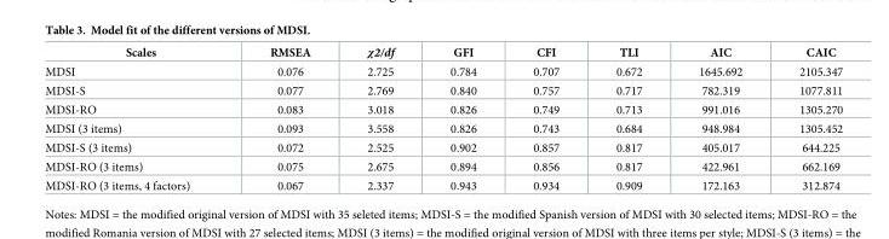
<table><thead><tr><td>Scales</td><td>RMSEA</td><td>χ2/df</td><td>GFI</td><td>CFI</td><td>TLI</td><td>AIC</td><td>CAIC</td></tr></thead><tbody><tr><td>MDSI</td><td>0.076</td><td>2.725</td><td>0.784</td><td>0.707</td><td>0.672</td><td>1645.692</td><td>2105.347</td></tr><tr><td>MDSI-S</td><td>0.077</td><td>2.769</td><td>0.840</td><td>0.757</td><td>0.717</td><td>782.319</td><td>1077.811</td></tr><tr><td>MDSI-RO</td><td>0.083</td><td>3.018</td><td>0.826</td><td>0.749</td><td>0.713</td><td>991.016</td><td>1305.270</td></tr><tr><td>MDSI (3 items)</td><td>0.093</td><td>3.558</td><td>0.826</td><td>0.743</td><td>0.684</td><td>948.984</td><td>1305.452</td></tr><tr><td>MDSI-S (3 items)</td><td>0.072</td><td>2.525</td><td>0.902</td><td>0.857</td><td>0.817</td><td>405.017</td><td>644.225</td></tr><tr><td>MDSI-RO (3 items)</td><td>0.075</td><td>2.675</td><td>0.894</td><td>0.856</td><td>0.817</td><td>422.961</td><td>662.169</td></tr><tr><td>MDSI-RO (3 items, 4 factors)</td><td>0.067</td><td>2.337</td><td>0.943</td><td>0.934</td><td>0.909</td><td>172.163</td><td>312.874</td></tr></tbody></table>